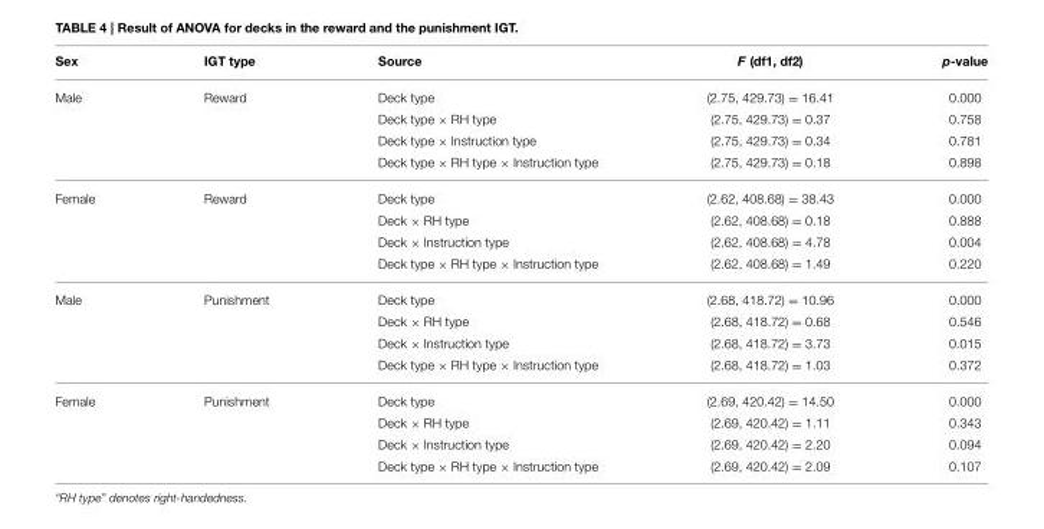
<table><thead><tr><td>Sex</td><td>IGT type</td><td>Source</td><td>F (df1, df2)</td><td>p-value</td></tr></thead><tbody><tr><td rowspan="4">Male</td><td>Reward</td><td>Deck type</td><td>(2.75, 429.73) = 16.41</td><td>0.000</td></tr><tr><td></td><td>Deck type × RH type</td><td>(2.75, 429.73) = 0.37</td><td>0.758</td></tr><tr><td></td><td>Deck type × Instruction type</td><td>(2.75, 429.73) = 0.34</td><td>0.781</td></tr><tr><td></td><td>Deck type × RH type × Instruction type</td><td>(2.75, 429.73) = 0.18</td><td>0.898</td></tr><tr><td rowspan="4">Female</td><td>Reward</td><td>Deck type</td><td>(2.62, 408.68) = 38.43</td><td>0.000</td></tr><tr><td></td><td>Deck × RH type</td><td>(2.62, 408.68) = 0.18</td><td>0.888</td></tr><tr><td></td><td>Deck × Instruction type</td><td>(2.62, 408.68) = 4.78</td><td>0.004</td></tr><tr><td></td><td>Deck type × RH type × Instruction type</td><td>(2.62, 408.68) = 1.49</td><td>0.220</td></tr><tr><td rowspan="4">Male</td><td>Punishment</td><td>Deck type</td><td>(2.68, 418.72) = 10.96</td><td>0.000</td></tr><tr><td></td><td>Deck × RH type</td><td>(2.68, 418.72) = 0.68</td><td>0.546</td></tr><tr><td></td><td>Deck × Instruction type</td><td>(2.68, 418.72) = 3.73</td><td>0.015</td></tr><tr><td></td><td>Deck type × RH type × Instruction type</td><td>(2.68, 418.72) = 1.03</td><td>0.372</td></tr><tr><td rowspan="4">Female</td><td>Punishment</td><td>Deck type</td><td>(2.69, 420.42) = 14.50</td><td>0.000</td></tr><tr><td></td><td>Deck × RH type</td><td>(2.69, 420.42) = 1.11</td><td>0.343</td></tr><tr><td></td><td>Deck × Instruction type</td><td>(2.69, 420.42) = 2.20</td><td>0.094</td></tr><tr><td></td><td>Deck type × RH type × Instruction type</td><td>(2.69, 420.42) = 2.09</td><td>0.107</td></tr></tbody></table>